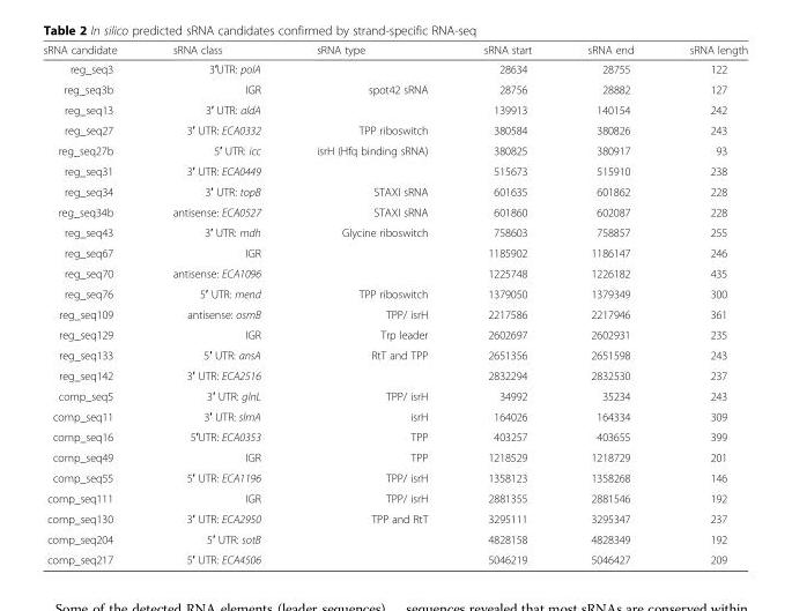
<table><thead><tr><td>sRNA candidate</td><td>sRNA class</td><td>sRNA type</td><td>sRNA start</td><td>sRNA end</td><td>sRNA length</td></tr></thead><tbody><tr><td>reg_seq3</td><td>3′UTR: polA</td><td></td><td>28634</td><td>28755</td><td>122</td></tr><tr><td>reg_seq3b</td><td>IGR</td><td>spot42 sRNA</td><td>28756</td><td>28882</td><td>127</td></tr><tr><td>reg_seq13</td><td>3′ UTR: aldA</td><td></td><td>139913</td><td>140154</td><td>242</td></tr><tr><td>reg_seq27</td><td>3′ UTR: ECA0332</td><td>TPP riboswitch</td><td>380584</td><td>380826</td><td>243</td></tr><tr><td>reg_seq27b</td><td>5′ UTR: icc</td><td>isrH (Hfq binding sRNA)</td><td>380825</td><td>380917</td><td>93</td></tr><tr><td>reg_seq31</td><td>3′ UTR: ECA0449</td><td></td><td>515673</td><td>515910</td><td>238</td></tr><tr><td>reg_seq34</td><td>3′ UTR: topB</td><td>STAXI sRNA</td><td>601635</td><td>601862</td><td>228</td></tr><tr><td>reg_seq34b</td><td>antisense: ECA0527</td><td>STAXI sRNA</td><td>601860</td><td>602087</td><td>228</td></tr><tr><td>reg_seq43</td><td>3′ UTR: mdh</td><td>Glycine riboswitch</td><td>758603</td><td>758857</td><td>255</td></tr><tr><td>reg_seq67</td><td>IGR</td><td></td><td>1185902</td><td>1186147</td><td>246</td></tr><tr><td>reg_seq70</td><td>antisense: ECA1096</td><td></td><td>1225748</td><td>1226182</td><td>435</td></tr><tr><td>reg_seq76</td><td>5′ UTR: mend</td><td>TPP riboswitch</td><td>1379050</td><td>1379349</td><td>300</td></tr><tr><td>reg_seq109</td><td>antisense: osmB</td><td>TPP/ isrH</td><td>2217586</td><td>2217946</td><td>361</td></tr><tr><td>reg_seq129</td><td>IGR</td><td>Trp leader</td><td>2602697</td><td>2602931</td><td>235</td></tr><tr><td>reg_seq133</td><td>5′ UTR: ansA</td><td>RtT and TPP</td><td>2651356</td><td>2651598</td><td>243</td></tr><tr><td>reg_seq142</td><td>3′ UTR: ECA2516</td><td></td><td>2832294</td><td>2832530</td><td>237</td></tr><tr><td>comp_seq5</td><td>3′ UTR: glnL</td><td>TPP/ isrH</td><td>34992</td><td>35234</td><td>243</td></tr><tr><td>comp_seq11</td><td>3′ UTR: slmA</td><td>isrH</td><td>164026</td><td>164334</td><td>309</td></tr><tr><td>comp_seq16</td><td>5′UTR: ECA0353</td><td>TPP</td><td>403257</td><td>403655</td><td>399</td></tr><tr><td>comp_seq49</td><td>IGR</td><td>TPP</td><td>1218529</td><td>1218729</td><td>201</td></tr><tr><td>comp_seq55</td><td>5′ UTR: ECA1196</td><td>TPP/ isrH</td><td>1358123</td><td>1358268</td><td>146</td></tr><tr><td>comp_seq111</td><td>IGR</td><td>TPP/ isrH</td><td>2881355</td><td>2881546</td><td>192</td></tr><tr><td>comp_seq130</td><td>3′ UTR: ECA2950</td><td>TPP and RtT</td><td>3295111</td><td>3295347</td><td>237</td></tr><tr><td>comp_seq204</td><td>5′ UTR: sotB</td><td></td><td>4828158</td><td>4828349</td><td>192</td></tr><tr><td>comp_seq217</td><td>5′ UTR: ECA4506</td><td></td><td>5046219</td><td>5046427</td><td>209</td></tr></tbody></table>